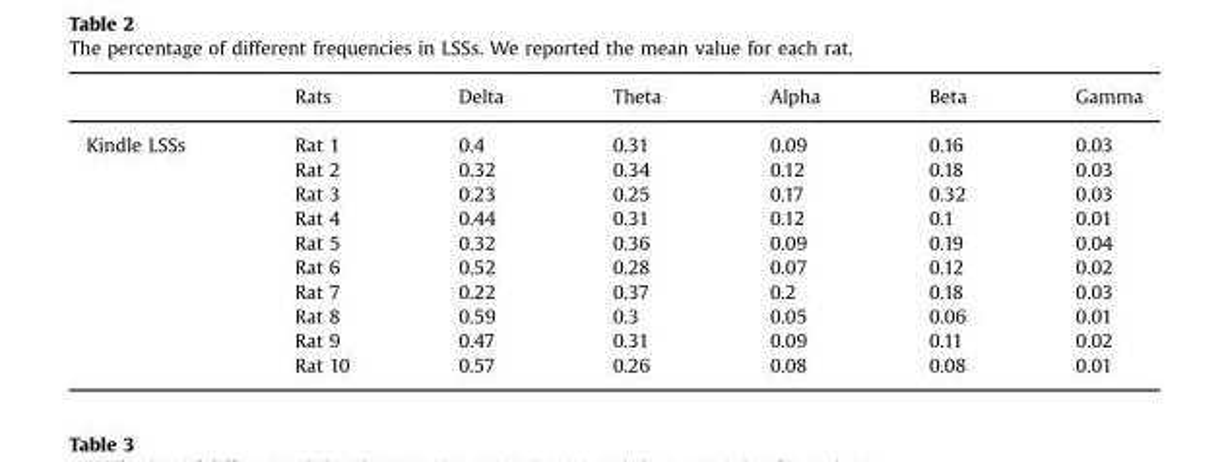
<table><thead><tr><td></td><td>Rats</td><td>Delta</td><td>Theta</td><td>Alpha</td><td>Beta</td><td>Gamma</td></tr></thead><tbody><tr><td rowspan="10">Kindle LSSs</td><td>Rat 1</td><td>0.4</td><td>0.31</td><td>0.09</td><td>0.16</td><td>0.03</td></tr><tr><td>Rat 2</td><td>0.32</td><td>0.34</td><td>0.12</td><td>0.18</td><td>0.03</td></tr><tr><td>Rat 3</td><td>0.23</td><td>0.25</td><td>0.17</td><td>0.32</td><td>0.03</td></tr><tr><td>Rat 4</td><td>0.44</td><td>0.31</td><td>0.12</td><td>0.1</td><td>0.01</td></tr><tr><td>Rat 5</td><td>0.32</td><td>0.36</td><td>0.09</td><td>0.19</td><td>0.04</td></tr><tr><td>Rat 6</td><td>0.52</td><td>0.28</td><td>0.07</td><td>0.12</td><td>0.02</td></tr><tr><td>Rat 7</td><td>0.22</td><td>0.37</td><td>0.2</td><td>0.18</td><td>0.03</td></tr><tr><td>Rat 8</td><td>0.59</td><td>0.3</td><td>0.05</td><td>0.06</td><td>0.01</td></tr><tr><td>Rat 9</td><td>0.47</td><td>0.31</td><td>0.09</td><td>0.11</td><td>0.02</td></tr><tr><td>Rat 10</td><td>0.57</td><td>0.26</td><td>0.08</td><td>0.08</td><td>0.01</td></tr></tbody></table>